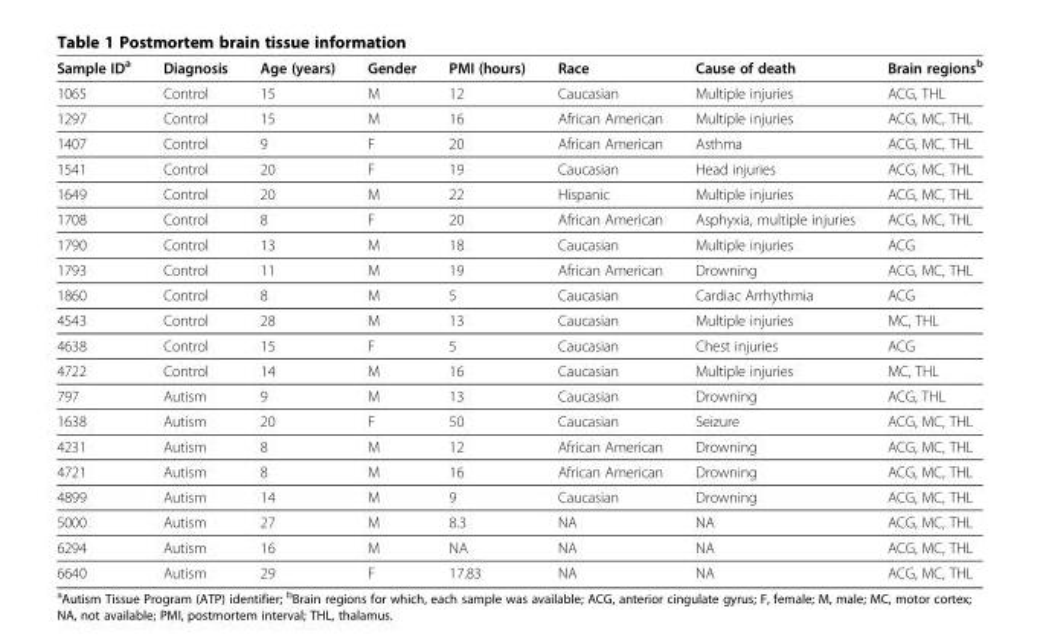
<table><thead><tr><td>Sample ID<sup>a</sup></td><td>Diagnosis</td><td>Age (years)</td><td>Gender</td><td>PMI (hours)</td><td>Race</td><td>Cause of death</td><td>Brain regions<sup>b</sup></td></tr></thead><tbody><tr><td>1065</td><td>Control</td><td>15</td><td>M</td><td>12</td><td>Caucasian</td><td>Multiple injuries</td><td>ACG, THL</td></tr><tr><td>1297</td><td>Control</td><td>15</td><td>M</td><td>16</td><td>African American</td><td>Multiple injuries</td><td>ACG, MC, THL</td></tr><tr><td>1407</td><td>Control</td><td>9</td><td>F</td><td>20</td><td>African American</td><td>Asthma</td><td>ACG, MC, THL</td></tr><tr><td>1541</td><td>Control</td><td>20</td><td>F</td><td>19</td><td>Caucasian</td><td>Head injuries</td><td>ACG, MC, THL</td></tr><tr><td>1649</td><td>Control</td><td>20</td><td>M</td><td>22</td><td>Hispanic</td><td>Multiple injuries</td><td>ACG, MC, THL</td></tr><tr><td>1708</td><td>Control</td><td>8</td><td>F</td><td>20</td><td>African American</td><td>Asphyxia, multiple injuries</td><td>ACG, MC, THL</td></tr><tr><td>1790</td><td>Control</td><td>13</td><td>M</td><td>18</td><td>Caucasian</td><td>Multiple injuries</td><td>ACG</td></tr><tr><td>1793</td><td>Control</td><td>11</td><td>M</td><td>19</td><td>African American</td><td>Drowning</td><td>ACG, MC, THL</td></tr><tr><td>1860</td><td>Control</td><td>8</td><td>M</td><td>5</td><td>Caucasian</td><td>Cardiac Arrhythmia</td><td>ACG</td></tr><tr><td>4543</td><td>Control</td><td>28</td><td>M</td><td>13</td><td>Caucasian</td><td>Multiple injuries</td><td>MC, THL</td></tr><tr><td>4638</td><td>Control</td><td>15</td><td>F</td><td>5</td><td>Caucasian</td><td>Chest injuries</td><td>ACG</td></tr><tr><td>4722</td><td>Control</td><td>14</td><td>M</td><td>16</td><td>Caucasian</td><td>Multiple injuries</td><td>MC, THL</td></tr><tr><td>797</td><td>Autism</td><td>9</td><td>M</td><td>13</td><td>Caucasian</td><td>Drowning</td><td>ACG, THL</td></tr><tr><td>1638</td><td>Autism</td><td>20</td><td>F</td><td>50</td><td>Caucasian</td><td>Seizure</td><td>ACG, MC, THL</td></tr><tr><td>4231</td><td>Autism</td><td>8</td><td>M</td><td>12</td><td>African American</td><td>Drowning</td><td>ACG, MC, THL</td></tr><tr><td>4721</td><td>Autism</td><td>8</td><td>M</td><td>16</td><td>African American</td><td>Drowning</td><td>ACG, MC, THL</td></tr><tr><td>4899</td><td>Autism</td><td>14</td><td>M</td><td>9</td><td>Caucasian</td><td>Drowning</td><td>ACG, MC, THL</td></tr><tr><td>5000</td><td>Autism</td><td>27</td><td>M</td><td>8.3</td><td>NA</td><td>NA</td><td>ACG, MC, THL</td></tr><tr><td>6294</td><td>Autism</td><td>16</td><td>M</td><td>NA</td><td>NA</td><td>NA</td><td>ACG, MC, THL</td></tr><tr><td>6640</td><td>Autism</td><td>29</td><td>F</td><td>17.83</td><td>NA</td><td>NA</td><td>ACG, MC, THL</td></tr></tbody></table>